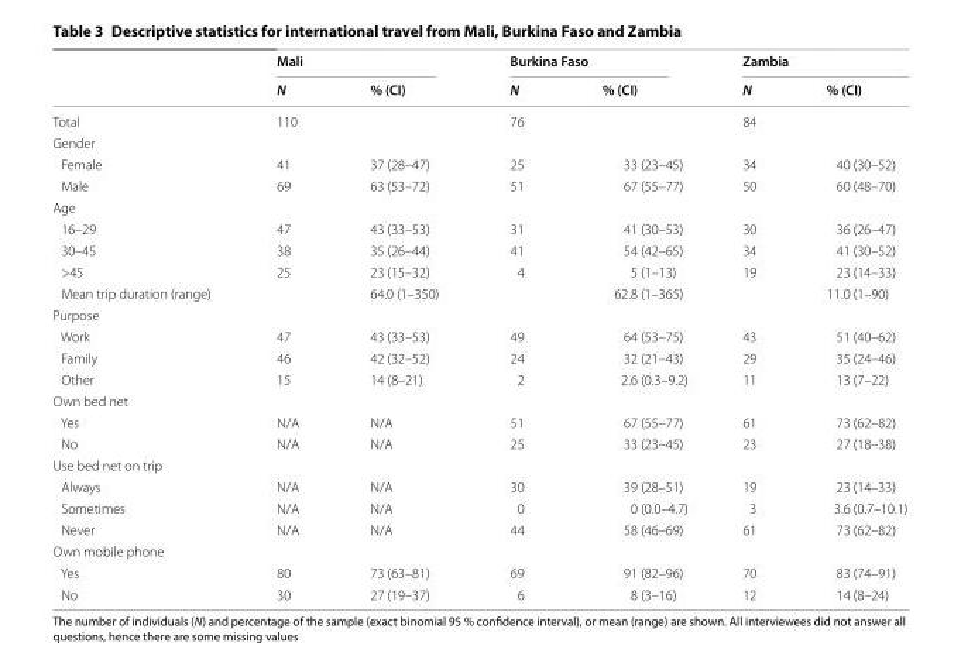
<table><thead><tr><td rowspan="2"></td><td colspan="2">Mali</td><td colspan="2">Burkina Faso</td><td colspan="2">Zambia</td></tr><tr><td>N</td><td>% (CI)</td><td>N</td><td>% (CI)</td><td>N</td><td>% (CI)</td></tr></thead><tbody><tr><td>Total</td><td>110</td><td></td><td>76</td><td></td><td>84</td><td></td></tr><tr><td colspan="7">Gender</td></tr><tr><td>Female</td><td>41</td><td>37 (28–47)</td><td>25</td><td>33 (23–45)</td><td>34</td><td>40 (30–52)</td></tr><tr><td>Male</td><td>69</td><td>63 (53–72)</td><td>51</td><td>67 (55–77)</td><td>50</td><td>60 (48–70)</td></tr><tr><td colspan="7">Age</td></tr><tr><td>16–29</td><td>47</td><td>43 (33–53)</td><td>31</td><td>41 (30–53)</td><td>30</td><td>36 (26–47)</td></tr><tr><td>30–45</td><td>38</td><td>35 (26–44)</td><td>41</td><td>54 (42–65)</td><td>34</td><td>41 (30–52)</td></tr><tr><td>&gt;45</td><td>25</td><td>23 (15–32)</td><td>4</td><td>5 (1–13)</td><td>19</td><td>23 (14–33)</td></tr><tr><td>Mean trip duration (range)</td><td></td><td>64.0 (1–350)</td><td></td><td>62.8 (1–365)</td><td></td><td>11.0 (1–90)</td></tr><tr><td colspan="7">Purpose</td></tr><tr><td>Work</td><td>47</td><td>43 (33–53)</td><td>49</td><td>64 (53–75)</td><td>43</td><td>51 (40–62)</td></tr><tr><td>Family</td><td>46</td><td>42 (32–52)</td><td>24</td><td>32 (21–43)</td><td>29</td><td>35 (24–46)</td></tr><tr><td>Other</td><td>15</td><td>14 (8–21)</td><td>2</td><td>2.6 (0.3–9.2)</td><td>11</td><td>13 (7–22)</td></tr><tr><td colspan="7">Own bed net</td></tr><tr><td>Yes</td><td>N/A</td><td>N/A</td><td>51</td><td>67 (55–77)</td><td>61</td><td>73 (62–82)</td></tr><tr><td>No</td><td>N/A</td><td>N/A</td><td>25</td><td>33 (23–45)</td><td>23</td><td>27 (18–38)</td></tr><tr><td colspan="7">Use bed net on trip</td></tr><tr><td>Always</td><td>N/A</td><td>N/A</td><td>30</td><td>39 (28–51)</td><td>19</td><td>23 (14–33)</td></tr><tr><td>Sometimes</td><td>N/A</td><td>N/A</td><td>0</td><td>0 (0.0–4.7)</td><td>3</td><td>3.6 (0.7–10.1)</td></tr><tr><td>Never</td><td>N/A</td><td>N/A</td><td>44</td><td>58 (46–69)</td><td>61</td><td>73 (62–82)</td></tr><tr><td colspan="7">Own mobile phone</td></tr><tr><td>Yes</td><td>80</td><td>73 (63–81)</td><td>69</td><td>91 (82–96)</td><td>70</td><td>83 (74–91)</td></tr><tr><td>No</td><td>30</td><td>27 (19–37)</td><td>6</td><td>8 (3–16)</td><td>12</td><td>14 (8–24)</td></tr></tbody></table>